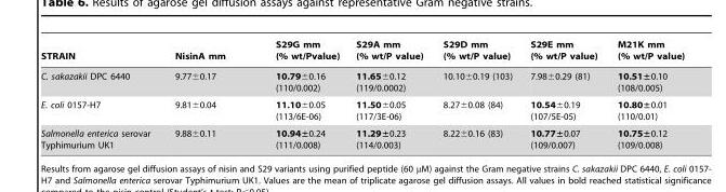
<table><thead><tr><td>STRAIN</td><td>NisinA mm</td><td>S29G mm (% wt/Pvalue)</td><td>S29A mm (% wt/P value)</td><td>S29D mm (% wt/P value)</td><td>S29E mm (% wt/P value)</td><td>M21K mm (% wt/P value)</td></tr></thead><tbody><tr><td>C. sakazakii DPC 6440</td><td>9.77±0.17</td><td>10.79±0.16 (110/0.002)</td><td>11.65±0.12 (119/0.0002)</td><td>10.10±0.19 (103)</td><td>7.98±0.29 (81)</td><td>10.51±0.10 (108/0.005)</td></tr><tr><td>E. coli 0157-H7</td><td>9.81±0.04</td><td>11.10±0.05 (113/6E-06)</td><td>11.50±0.05 (117/3E-06)</td><td>8.27±0.08 (84)</td><td>10.54±0.19 (107/5E-05)</td><td>10.80±0.01 (110/0.01)</td></tr><tr><td>Salmonella enterica serovar Typhimurium UK1</td><td>9.88±0.11</td><td>10.94±0.24 (111/0.008)</td><td>11.29±0.23 (114/0.003)</td><td>8.22±0.16 (83)</td><td>10.77±0.07 (109/0.007)</td><td>10.75±0.12 (109/0.008)</td></tr></tbody></table>